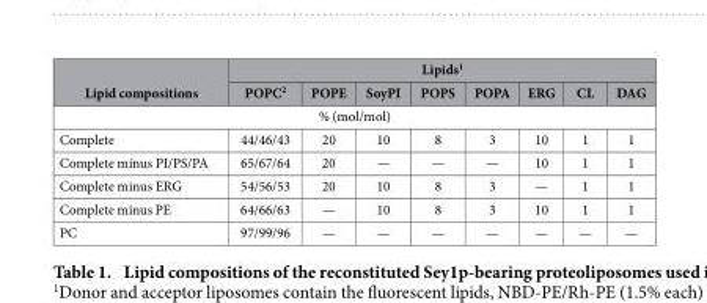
<table><thead><tr><td rowspan="2">Lipid compositions</td><td colspan="8">Lipids<sup>1</sup></td></tr><tr><td>POPC<sup>2</sup></td><td>POPE</td><td>SoyPI</td><td>POPS</td><td>POPA</td><td>ERG</td><td>CL</td><td>DAG</td></tr></thead><tbody><tr><td colspan="9">% (mol/mol)</td></tr><tr><td>Complete</td><td>44/46/43</td><td>20</td><td>10</td><td>8</td><td>3</td><td>10</td><td>1</td><td>1</td></tr><tr><td>Complete minus PI/PS/PA</td><td>65/67/64</td><td>20</td><td>—</td><td>—</td><td>—</td><td>10</td><td>1</td><td>1</td></tr><tr><td>Complete minus ERG</td><td>54/56/53</td><td>20</td><td>10</td><td>8</td><td>3</td><td>—</td><td>1</td><td>1</td></tr><tr><td>Complete minus PE</td><td>64/66/63</td><td>—</td><td>10</td><td>8</td><td>3</td><td>10</td><td>1</td><td>1</td></tr><tr><td>PC</td><td>97/99/96</td><td>—</td><td>—</td><td>—</td><td>—</td><td>—</td><td>—</td><td>—</td></tr></tbody></table>